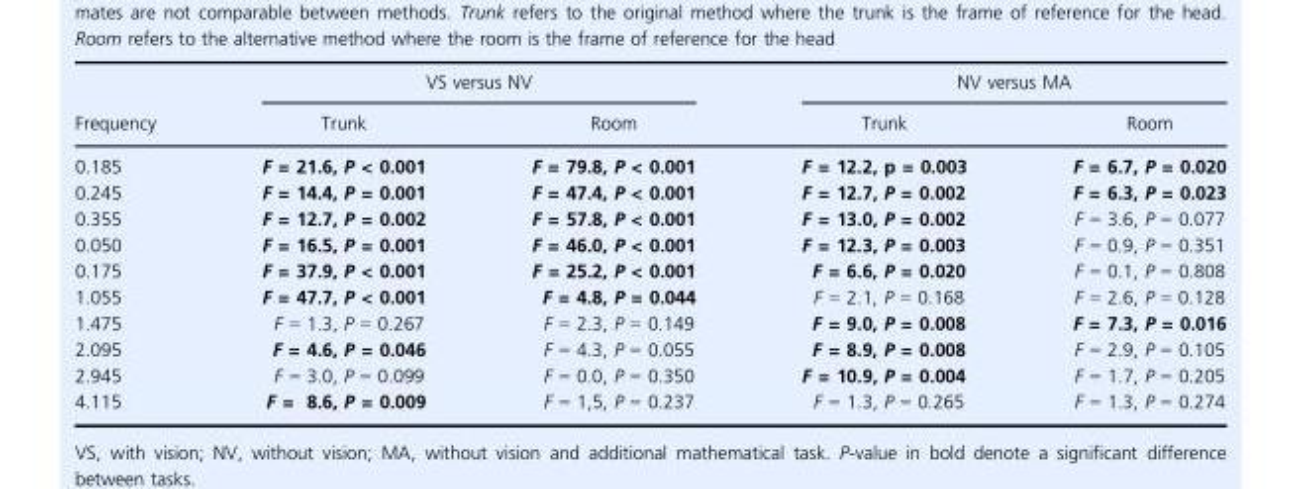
<table><thead><tr><td rowspan="2">Frequency</td><td colspan="2">VS versus NV</td><td colspan="2">NV versus MA</td></tr><tr><td>Trunk</td><td>Room</td><td>Trunk</td><td>Room</td></tr></thead><tbody><tr><td>0.185</td><td>F = 21.6, P &lt; 0.001</td><td>F = 79.8, P &lt; 0.001</td><td>F = 12.2, p = 0.003</td><td>F = 6.7, P = 0.020</td></tr><tr><td>0.245</td><td>F = 14.4, P = 0.001</td><td>F = 47.4, P &lt; 0.001</td><td>F = 12.7, P = 0.002</td><td>F = 6.3, P = 0.023</td></tr><tr><td>0.355</td><td>F = 12.7, P = 0.002</td><td>F = 57.8, P &lt; 0.001</td><td>F = 13.0, P = 0.002</td><td>F = 3.6, P = 0.077</td></tr><tr><td>0.050</td><td>F = 16.5, P = 0.001</td><td>F = 46.0, P &lt; 0.001</td><td>F = 12.3, P = 0.003</td><td>F = 0.9, P = 0.351</td></tr><tr><td>0.175</td><td>F = 37.9, P &lt; 0.001</td><td>F = 25.2, P &lt; 0.001</td><td>F = 6.6, P = 0.020</td><td>F = 0.1, P = 0.808</td></tr><tr><td>1.055</td><td>F = 47.7, P &lt; 0.001</td><td>F = 4.8, P = 0.044</td><td>F = 2.1, P = 0.168</td><td>F = 2.6, P = 0.128</td></tr><tr><td>1.475</td><td>F = 1.3, P = 0.267</td><td>F = 2.3, P = 0.149</td><td>F = 9.0, P = 0.008</td><td>F = 7.3, P = 0.016</td></tr><tr><td>2.095</td><td>F = 4.6, P = 0.046</td><td>F = 4.3, P = 0.055</td><td>F = 8.9, P = 0.008</td><td>F = 2.9, P = 0.105</td></tr><tr><td>2.945</td><td>F = 3.0, P = 0.099</td><td>F = 0.0, P = 0.350</td><td>F = 10.9, P = 0.004</td><td>F = 1.7, P = 0.205</td></tr><tr><td>4.115</td><td>F = 8.6, P = 0.009</td><td>F = 1,5, P = 0.237</td><td>F = 1.3, P = 0.265</td><td>F = 1.3, P = 0.274</td></tr></tbody></table>